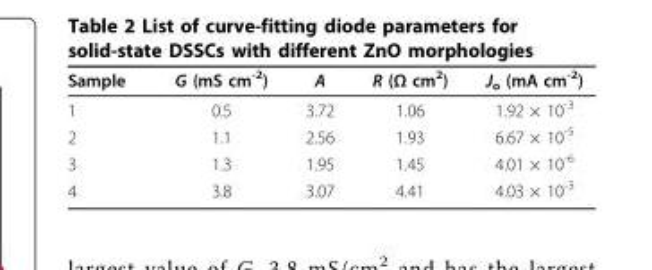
<table><thead><tr><td>Sample</td><td>G (mS cm<sup>-2</sup>)</td><td>A</td><td>R (Ω cm<sup>2</sup>)</td><td>J<sub>o</sub> (mA cm<sup>-2</sup>)</td></tr></thead><tbody><tr><td>1</td><td>0.5</td><td>3.72</td><td>1.06</td><td>1.92 × 10<sup>-3</sup></td></tr><tr><td>2</td><td>1.1</td><td>2.56</td><td>1.93</td><td>6.67 × 10<sup>-5</sup></td></tr><tr><td>3</td><td>1.3</td><td>1.95</td><td>1.45</td><td>4.01 × 10<sup>-6</sup></td></tr><tr><td>4</td><td>3.8</td><td>3.07</td><td>4.41</td><td>4.03 × 10<sup>-3</sup></td></tr></tbody></table>